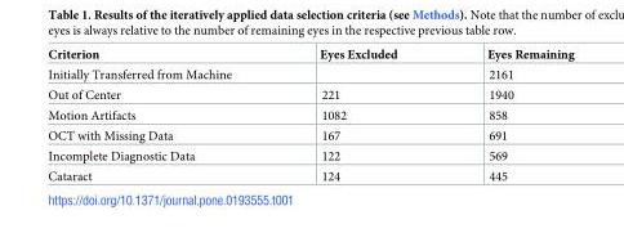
<table><thead><tr><td>Criterion</td><td>Eyes Excluded</td><td>Eyes Remaining</td></tr></thead><tbody><tr><td>Initially Transferred from Machine</td><td></td><td>2161</td></tr><tr><td>Out of Center</td><td>221</td><td>1940</td></tr><tr><td>Motion Artifacts</td><td>1082</td><td>858</td></tr><tr><td>OCT with Missing Data</td><td>167</td><td>691</td></tr><tr><td>Incomplete Diagnostic Data</td><td>122</td><td>569</td></tr><tr><td>Cataract</td><td>124</td><td>445</td></tr></tbody></table>